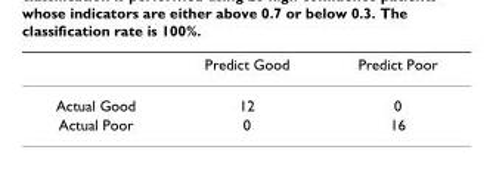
<table><thead><tr><td></td><td>Predict Good</td><td>Predict Poor</td></tr></thead><tbody><tr><td>Actual Good</td><td>12</td><td>0</td></tr><tr><td>Actual Poor</td><td>0</td><td>16</td></tr></tbody></table>